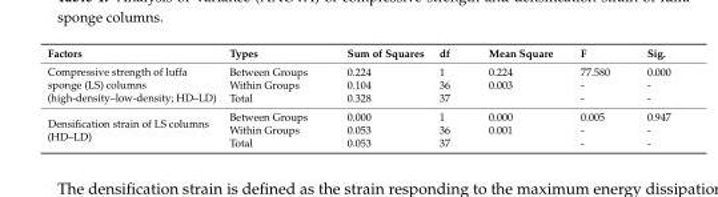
<table><thead><tr><td>Factors</td><td>Types</td><td>Sum of Squares</td><td>df</td><td>Mean Square</td><td>F</td><td>Sig.</td></tr></thead><tbody><tr><td rowspan="3">Compressive strength of luffa sponge (LS) columns (high-density–low-density; HD–LD)</td><td>Between Groups</td><td>0.224</td><td>1</td><td>0.224</td><td>77.580</td><td>0.000</td></tr><tr><td>Within Groups</td><td>0.104</td><td>36</td><td>0.003</td><td>-</td><td>-</td></tr><tr><td>Total</td><td>0.328</td><td>37</td><td></td><td>-</td><td>-</td></tr><tr><td rowspan="3">Densification strain of LS columns (HD–LD)</td><td>Between Groups</td><td>0.000</td><td>1</td><td>0.000</td><td>0.005</td><td>0.947</td></tr><tr><td>Within Groups</td><td>0.053</td><td>36</td><td>0.001</td><td>-</td><td>-</td></tr><tr><td>Total</td><td>0.053</td><td>37</td><td></td><td>-</td><td>-</td></tr></tbody></table>